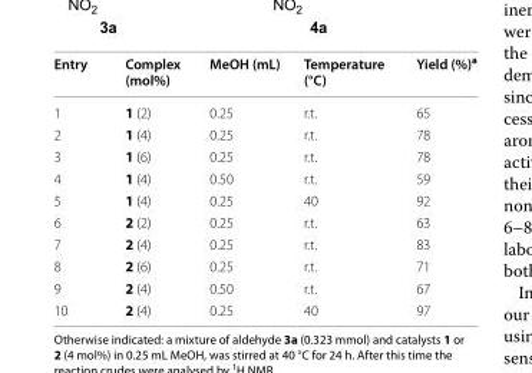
<table><thead><tr><td>Entry</td><td>Complex (mol%)</td><td>MeOH (mL)</td><td>Temperature (°C)</td><td>Yield (%)<sup>a</sup></td></tr></thead><tbody><tr><td>1</td><td>1 (2)</td><td>0.25</td><td>r.t.</td><td>65</td></tr><tr><td>2</td><td>1 (4)</td><td>0.25</td><td>r.t.</td><td>78</td></tr><tr><td>3</td><td>1 (6)</td><td>0.25</td><td>r.t.</td><td>78</td></tr><tr><td>4</td><td>1 (4)</td><td>0.50</td><td>r.t.</td><td>59</td></tr><tr><td>5</td><td>1 (4)</td><td>0.25</td><td>40</td><td>92</td></tr><tr><td>6</td><td>2 (2)</td><td>0.25</td><td>r.t.</td><td>63</td></tr><tr><td>7</td><td>2 (4)</td><td>0.25</td><td>r.t.</td><td>83</td></tr><tr><td>8</td><td>2 (6)</td><td>0.25</td><td>r.t.</td><td>71</td></tr><tr><td>9</td><td>2 (4)</td><td>0.50</td><td>r.t.</td><td>67</td></tr><tr><td>10</td><td>2 (4)</td><td>0.25</td><td>40</td><td>97</td></tr></tbody></table>